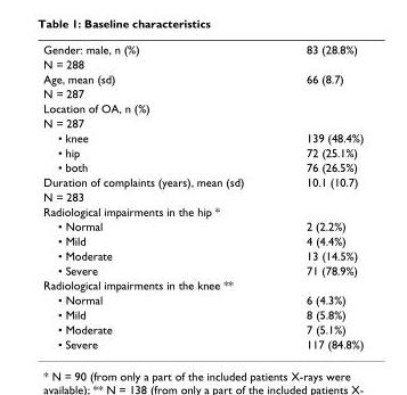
<table><tbody><tr><td>Gender: male, n (%)</td><td>83 (28.8%)</td></tr><tr><td colspan="2">N = 288</td></tr><tr><td>Age, mean (sd)</td><td>66 (8.7)</td></tr><tr><td colspan="2">N = 287</td></tr><tr><td colspan="2">Location of OA, n (%)</td></tr><tr><td colspan="2">N = 287</td></tr><tr><td>• knee</td><td>139 (48.4%)</td></tr><tr><td>• hip</td><td>72 (25.1%)</td></tr><tr><td>• both</td><td>76 (26.5%)</td></tr><tr><td>Duration of complaints (years), mean (sd)</td><td>10.1 (10.7)</td></tr><tr><td colspan="2">N = 283</td></tr><tr><td colspan="2">Radiological impairments in the hip *</td></tr><tr><td>• Normal</td><td>2 (2.2%)</td></tr><tr><td>• Mild</td><td>4 (4.4%)</td></tr><tr><td>• Moderate</td><td>13 (14.5%)</td></tr><tr><td>• Severe</td><td>71 (78.9%)</td></tr><tr><td colspan="2">Radiological impairments in the knee **</td></tr><tr><td>• Normal</td><td>6 (4.3%)</td></tr><tr><td>• Mild</td><td>8 (5.8%)</td></tr><tr><td>• Moderate</td><td>7 (5.1%)</td></tr><tr><td>• Severe</td><td>117 (84.8%)</td></tr></tbody></table>